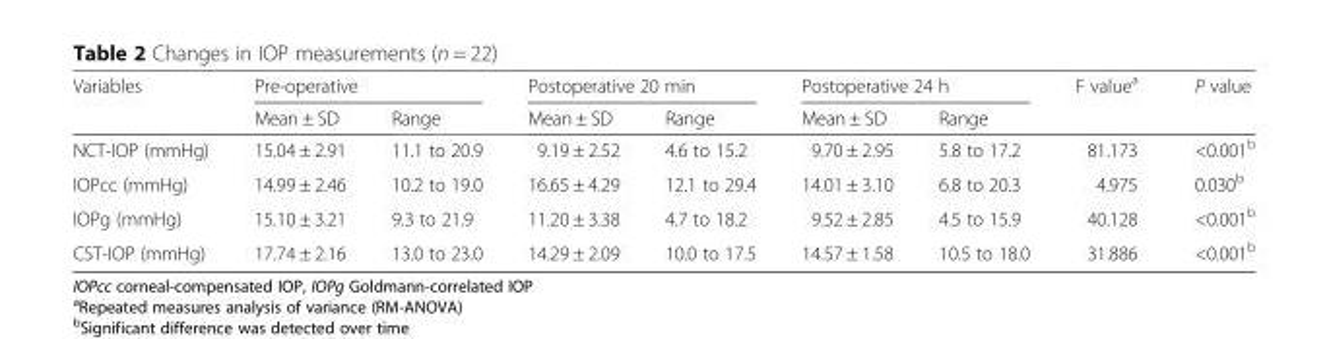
<table><thead><tr><td rowspan="2">Variables</td><td colspan="2">Pre-operative</td><td colspan="2">Postoperative 20 min</td><td colspan="2">Postoperative 24 h</td><td rowspan="2">F value<sup>a</sup></td><td rowspan="2">P value</td></tr><tr><td>Mean ± SD</td><td>Range</td><td>Mean ± SD</td><td>Range</td><td>Mean ± SD</td><td>Range</td></tr></thead><tbody><tr><td>NCT-IOP (mmHg)</td><td>15.04 ± 2.91</td><td>11.1 to 20.9</td><td>9.19 ± 2.52</td><td>4.6 to 15.2</td><td>9.70 ± 2.95</td><td>5.8 to 17.2</td><td>81.173</td><td>&lt;0.001<sup>b</sup></td></tr><tr><td>IOPcc (mmHg)</td><td>14.99 ± 2.46</td><td>10.2 to 19.0</td><td>16.65 ± 4.29</td><td>12.1 to 29.4</td><td>14.01 ± 3.10</td><td>6.8 to 20.3</td><td>4.975</td><td>0.030<sup>b</sup></td></tr><tr><td>IOPg (mmHg)</td><td>15.10 ± 3.21</td><td>9.3 to 21.9</td><td>11.20 ± 3.38</td><td>4.7 to 18.2</td><td>9.52 ± 2.85</td><td>4.5 to 15.9</td><td>40.128</td><td>&lt;0.001<sup>b</sup></td></tr><tr><td>CST-IOP (mmHg)</td><td>17.74 ± 2.16</td><td>13.0 to 23.0</td><td>14.29 ± 2.09</td><td>10.0 to 17.5</td><td>14.57 ± 1.58</td><td>10.5 to 18.0</td><td>31.886</td><td>&lt;0.001<sup>b</sup></td></tr></tbody></table>